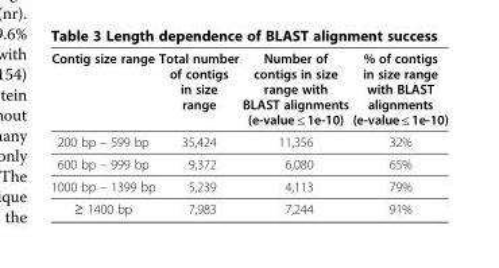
<table><thead><tr><td>Contig size range</td><td>Total number of contigs in size range</td><td>Number of contigs in size range with BLAST alignments (e-value ≤ 1e-10)</td><td>% of contigs in size range with BLAST alignments (e-value ≤ 1e-10)</td></tr></thead><tbody><tr><td>200 bp – 599 bp</td><td>35,424</td><td>11,356</td><td>32%</td></tr><tr><td>600 bp – 999 bp</td><td>9,372</td><td>6,080</td><td>65%</td></tr><tr><td>1000 bp – 1399 bp</td><td>5,239</td><td>4,113</td><td>79%</td></tr><tr><td>≥ 1400 bp</td><td>7,983</td><td>7,244</td><td>91%</td></tr></tbody></table>